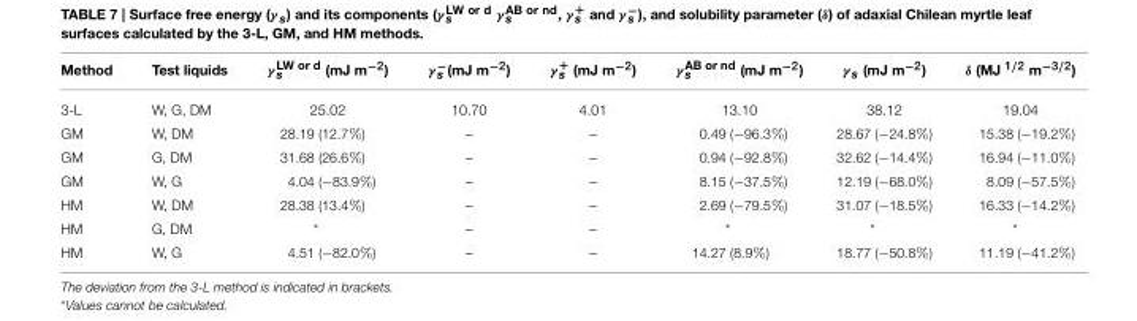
<table><thead><tr><td>Method</td><td>Test liquids</td><td>γ <sup>LW or d</sup> <sub>s</sub> (mJ m<sup>−2</sup>)</td><td>γ <sup>−</sup><sub>s</sub> (mJ m<sup>−2</sup>)</td><td>γ <sup>+</sup> <sub>s</sub> (mJ m<sup>−2</sup>)</td><td>γ <sup>AB or nd</sup> <sub>s</sub> (mJ m<sup>−2</sup>)</td><td>γ <sub>s</sub> (mJ m<sup>−2</sup>)</td><td>δ (MJ <sup>1/2</sup> m<sup>−3/2</sup>)</td></tr></thead><tbody><tr><td>3-L</td><td>W, G, DM</td><td>25.02</td><td>10.70</td><td>4.01</td><td>13.10</td><td>38.12</td><td>19.04</td></tr><tr><td>GM</td><td>W, DM</td><td>28.19 (12.7%)</td><td>–</td><td>–</td><td>0.49 (−96.3%)</td><td>28.67 (−24.8%)</td><td>15.38 (−19.2%)</td></tr><tr><td>GM</td><td>G, DM</td><td>31.68 (26.6%)</td><td>–</td><td>–</td><td>0.94 (−92.8%)</td><td>32.62 (−14.4%)</td><td>16.94 (−11.0%)</td></tr><tr><td>GM</td><td>W, G</td><td>4.04 (−83.9%)</td><td>–</td><td>–</td><td>8.15 (−37.5%)</td><td>12.19 (−68.0%)</td><td>8.09 (−57.5%)</td></tr><tr><td>HM</td><td>W, DM</td><td>28.38 (13.4%)</td><td>–</td><td>–</td><td>2.69 (−79.5%)</td><td>31.07 (−18.5%)</td><td>16.33 (−14.2%)</td></tr><tr><td>HM</td><td>G, DM</td><td>*</td><td>–</td><td>–</td><td>*</td><td>*</td><td>*</td></tr><tr><td>HM</td><td>W, G</td><td>4.51 (−82.0%)</td><td>–</td><td>–</td><td>14.27 (8.9%)</td><td>18.77 (−50.8%)</td><td>11.19 (−41.2%)</td></tr></tbody></table>